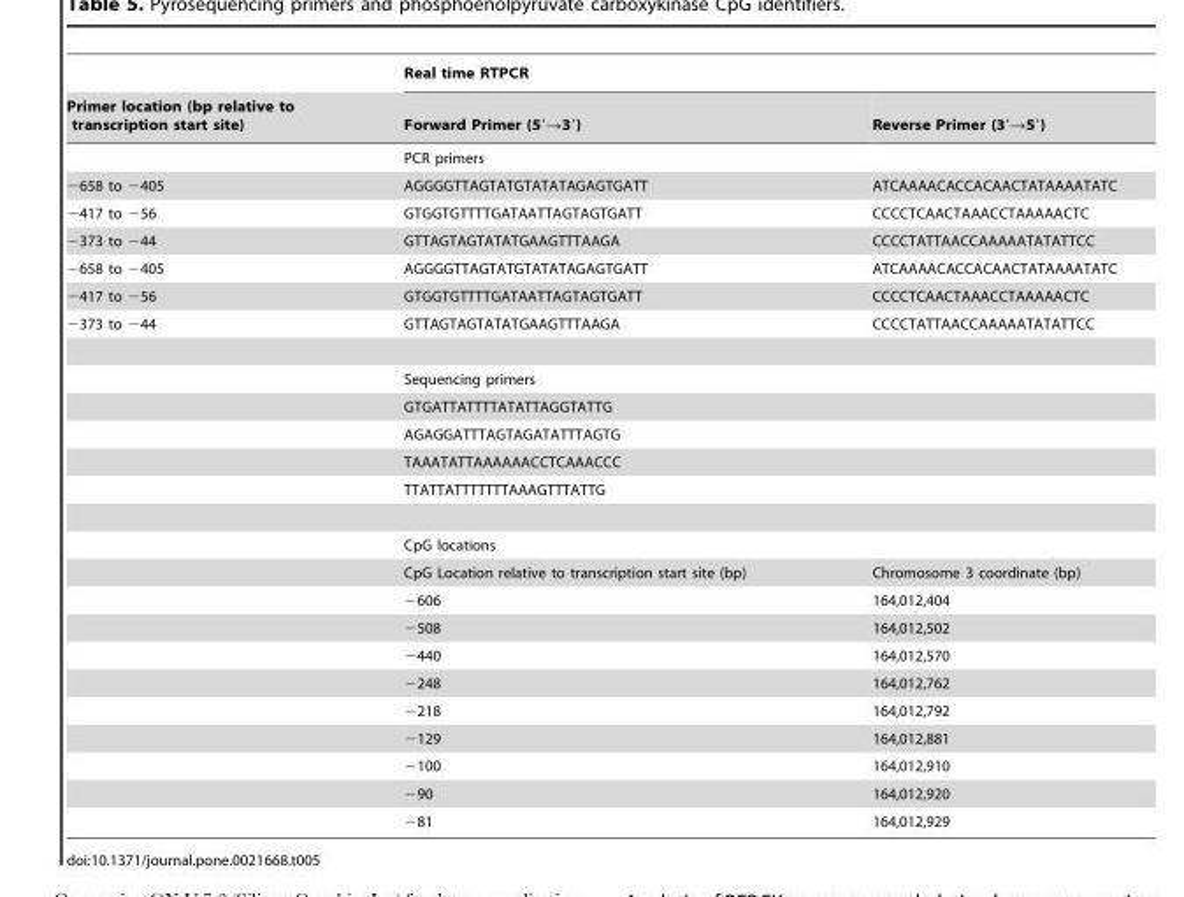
<table><thead><tr><td rowspan="2">Primer location (bp relative to transcription start site)</td><td colspan="2">Real time RTPCR</td></tr><tr><td>Forward Primer (5′→3′)</td><td>Reverse Primer (3′→5′)</td></tr></thead><tbody><tr><td></td><td colspan="2">PCR primers</td></tr><tr><td>−658 to −405</td><td>AGGGGTTAGTATGTATATAGAGTGATT</td><td>ATCAAAACACCACAACTATAAAATATC</td></tr><tr><td>−417 to −56</td><td>GTGGTGTTTTGATAATTAGTAGTGATT</td><td>CCCCTCAACTAAACCTAAAAACTC</td></tr><tr><td>−373 to −44</td><td>GTTAGTAGTATATGAAGTTTAAGA</td><td>CCCCTATTAACCAAAAATATATTCC</td></tr><tr><td>−658 to −405</td><td>AGGGGTTAGTATGTATATAGAGTGATT</td><td>ATCAAAACACCACAACTATAAAATATC</td></tr><tr><td>−417 to −56</td><td>GTGGTGTTTTGATAATTAGTAGTGATT</td><td>CCCCTCAACTAAACCTAAAAACTC</td></tr><tr><td rowspan="17">−373 to −44</td><td>GTTAGTAGTATATGAAGTTTAAGA</td><td>CCCCTATTAACCAAAAATATATTCC</td></tr><tr><td colspan="2">Sequencing primers</td></tr><tr><td colspan="2">GTGATTATTTTATATTAGGTATTG</td></tr><tr><td colspan="2">AGAGGATTTAGTAGATATTTAGTG</td></tr><tr><td colspan="2">TAAATATTAAAAAACCTCAAACCC</td></tr><tr><td colspan="2">TTATTATTTTTTTAAAGTTTATTG</td></tr><tr><td colspan="2">CpG locations</td></tr><tr><td>CpG Location relative to transcription start site (bp)</td><td>Chromosome 3 coordinate (bp)</td></tr><tr><td>−606</td><td>164,012,404</td></tr><tr><td>−508</td><td>164,012,502</td></tr><tr><td>−440</td><td>164,012,570</td></tr><tr><td>−248</td><td>164,012,762</td></tr><tr><td>−218</td><td>164,012,792</td></tr><tr><td>−129</td><td>164,012,881</td></tr><tr><td>−100</td><td>164,012,910</td></tr><tr><td>−90</td><td>164,012,920</td></tr><tr><td>−81</td><td>164,012,929</td></tr></tbody></table>